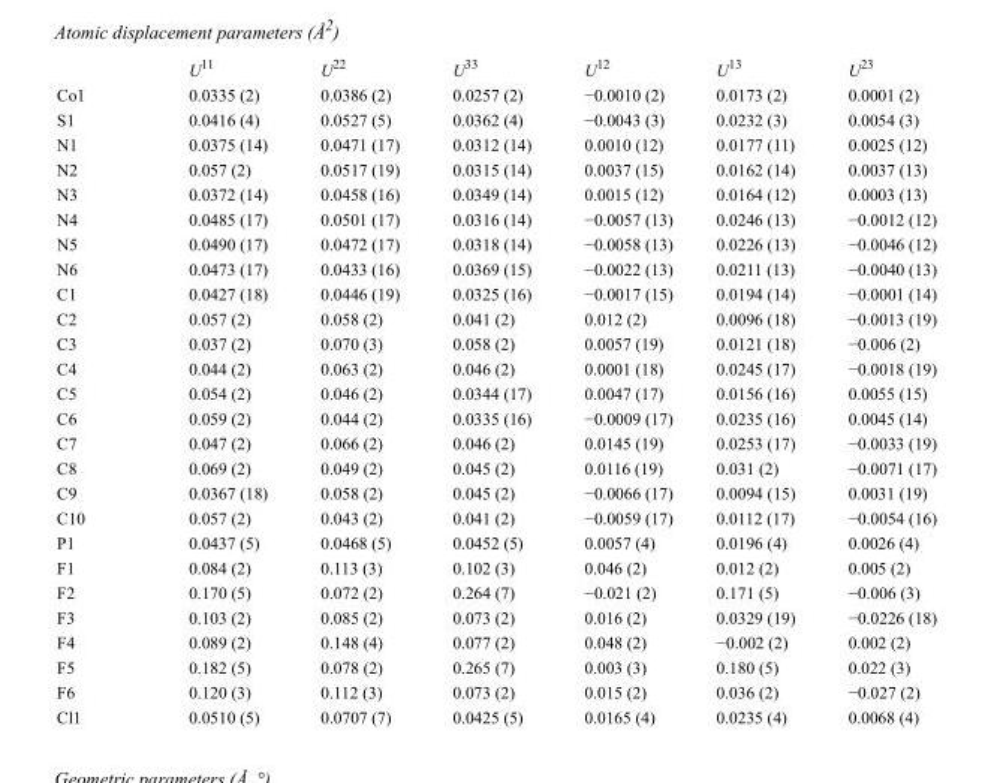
<table><thead><tr><td></td><td>U<sup>11</sup></td><td>U<sup>22</sup></td><td>U<sup>33</sup></td><td>U<sup>12</sup></td><td>U<sup>13</sup></td><td>U<sup>23</sup></td></tr></thead><tbody><tr><td>Co1</td><td>0.0335 (2)</td><td>0.0386 (2)</td><td>0.0257 (2)</td><td>−0.0010 (2)</td><td>0.0173 (2)</td><td>0.0001 (2)</td></tr><tr><td>S1</td><td>0.0416 (4)</td><td>0.0527 (5)</td><td>0.0362 (4)</td><td>−0.0043 (3)</td><td>0.0232 (3)</td><td>0.0054 (3)</td></tr><tr><td>N1</td><td>0.0375 (14)</td><td>0.0471 (17)</td><td>0.0312 (14)</td><td>0.0010 (12)</td><td>0.0177 (11)</td><td>0.0025 (12)</td></tr><tr><td>N2</td><td>0.057 (2)</td><td>0.0517 (19)</td><td>0.0315 (14)</td><td>0.0037 (15)</td><td>0.0162 (14)</td><td>0.0037 (13)</td></tr><tr><td>N3</td><td>0.0372 (14)</td><td>0.0458 (16)</td><td>0.0349 (14)</td><td>0.0015 (12)</td><td>0.0164 (12)</td><td>0.0003 (13)</td></tr><tr><td>N4</td><td>0.0485 (17)</td><td>0.0501 (17)</td><td>0.0316 (14)</td><td>−0.0057 (13)</td><td>0.0246 (13)</td><td>−0.0012 (12)</td></tr><tr><td>N5</td><td>0.0490 (17)</td><td>0.0472 (17)</td><td>0.0318 (14)</td><td>−0.0058 (13)</td><td>0.0226 (13)</td><td>−0.0046 (12)</td></tr><tr><td>N6</td><td>0.0473 (17)</td><td>0.0433 (16)</td><td>0.0369 (15)</td><td>−0.0022 (13)</td><td>0.0211 (13)</td><td>−0.0040 (13)</td></tr><tr><td>C1</td><td>0.0427 (18)</td><td>0.0446 (19)</td><td>0.0325 (16)</td><td>−0.0017 (15)</td><td>0.0194 (14)</td><td>−0.0001 (14)</td></tr><tr><td>C2</td><td>0.057 (2)</td><td>0.058 (2)</td><td>0.041 (2)</td><td>0.012 (2)</td><td>0.0096 (18)</td><td>−0.0013 (19)</td></tr><tr><td>C3</td><td>0.037 (2)</td><td>0.070 (3)</td><td>0.058 (2)</td><td>0.0057 (19)</td><td>0.0121 (18)</td><td>−0.006 (2)</td></tr><tr><td>C4</td><td>0.044 (2)</td><td>0.063 (2)</td><td>0.046 (2)</td><td>0.0001 (18)</td><td>0.0245 (17)</td><td>−0.0018 (19)</td></tr><tr><td>C5</td><td>0.054 (2)</td><td>0.046 (2)</td><td>0.0344 (17)</td><td>0.0047 (17)</td><td>0.0156 (16)</td><td>0.0055 (15)</td></tr><tr><td>C6</td><td>0.059 (2)</td><td>0.044 (2)</td><td>0.0335 (16)</td><td>−0.0009 (17)</td><td>0.0235 (16)</td><td>0.0045 (14)</td></tr><tr><td>C7</td><td>0.047 (2)</td><td>0.066 (2)</td><td>0.046 (2)</td><td>0.0145 (19)</td><td>0.0253 (17)</td><td>−0.0033 (19)</td></tr><tr><td>C8</td><td>0.069 (2)</td><td>0.049 (2)</td><td>0.045 (2)</td><td>0.0116 (19)</td><td>0.031 (2)</td><td>−0.0071 (17)</td></tr><tr><td>C9</td><td>0.0367 (18)</td><td>0.058 (2)</td><td>0.045 (2)</td><td>−0.0066 (17)</td><td>0.0094 (15)</td><td>0.0031 (19)</td></tr><tr><td>C10</td><td>0.057 (2)</td><td>0.043 (2)</td><td>0.041 (2)</td><td>−0.0059 (17)</td><td>0.0112 (17)</td><td>−0.0054 (16)</td></tr><tr><td>P1</td><td>0.0437 (5)</td><td>0.0468 (5)</td><td>0.0452 (5)</td><td>0.0057 (4)</td><td>0.0196 (4)</td><td>0.0026 (4)</td></tr><tr><td>F1</td><td>0.084 (2)</td><td>0.113 (3)</td><td>0.102 (3)</td><td>0.046 (2)</td><td>0.012 (2)</td><td>0.005 (2)</td></tr><tr><td>F2</td><td>0.170 (5)</td><td>0.072 (2)</td><td>0.264 (7)</td><td>−0.021 (2)</td><td>0.171 (5)</td><td>−0.006 (3)</td></tr><tr><td>F3</td><td>0.103 (2)</td><td>0.085 (2)</td><td>0.073 (2)</td><td>0.016 (2)</td><td>0.0329 (19)</td><td>−0.0226 (18)</td></tr><tr><td>F4</td><td>0.089 (2)</td><td>0.148 (4)</td><td>0.077 (2)</td><td>0.048 (2)</td><td>−0.002 (2)</td><td>0.002 (2)</td></tr><tr><td>F5</td><td>0.182 (5)</td><td>0.078 (2)</td><td>0.265 (7)</td><td>0.003 (3)</td><td>0.180 (5)</td><td>0.022 (3)</td></tr><tr><td>F6</td><td>0.120 (3)</td><td>0.112 (3)</td><td>0.073 (2)</td><td>0.015 (2)</td><td>0.036 (2)</td><td>−0.027 (2)</td></tr><tr><td>Cl1</td><td>0.0510 (5)</td><td>0.0707 (7)</td><td>0.0425 (5)</td><td>0.0165 (4)</td><td>0.0235 (4)</td><td>0.0068 (4)</td></tr></tbody></table>